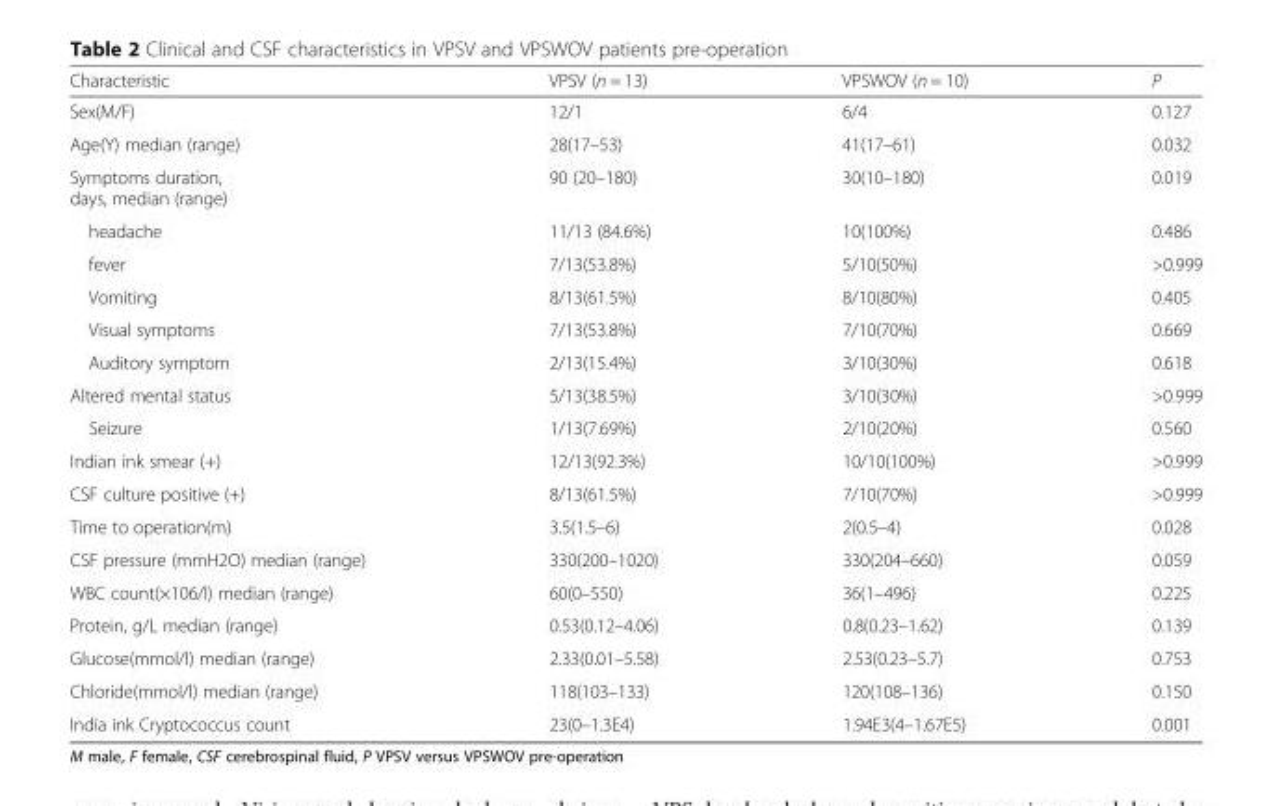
<table><thead><tr><td>Characteristic</td><td>VPSV (n = 13)</td><td>VPSWOV (n = 10)</td><td>P</td></tr></thead><tbody><tr><td>Sex(M/F)</td><td>12/1</td><td>6/4</td><td>0.127</td></tr><tr><td>Age(Y) median (range)</td><td>28(17–53)</td><td>41(17–61)</td><td>0.032</td></tr><tr><td>Symptoms duration, days, median (range)</td><td>90 (20–180)</td><td>30(10–180)</td><td>0.019</td></tr><tr><td>headache</td><td>11/13 (84.6%)</td><td>10(100%)</td><td>0.486</td></tr><tr><td>fever</td><td>7/13(53.8%)</td><td>5/10(50%)</td><td>&gt;0.999</td></tr><tr><td>Vomiting</td><td>8/13(61.5%)</td><td>8/10(80%)</td><td>0.405</td></tr><tr><td>Visual symptoms</td><td>7/13(53.8%)</td><td>7/10(70%)</td><td>0.669</td></tr><tr><td>Auditory symptom</td><td>2/13(15.4%)</td><td>3/10(30%)</td><td>0.618</td></tr><tr><td>Altered mental status</td><td>5/13(38.5%)</td><td>3/10(30%)</td><td>&gt;0.999</td></tr><tr><td>Seizure</td><td>1/13(7.69%)</td><td>2/10(20%)</td><td>0.560</td></tr><tr><td>Indian ink smear (+)</td><td>12/13(92.3%)</td><td>10/10(100%)</td><td>&gt;0.999</td></tr><tr><td>CSF culture positive (+)</td><td>8/13(61.5%)</td><td>7/10(70%)</td><td>&gt;0.999</td></tr><tr><td>Time to operation(m)</td><td>3.5(1.5–6)</td><td>2(0.5–4)</td><td>0.028</td></tr><tr><td>CSF pressure (mmH2O) median (range)</td><td>330(200–1020)</td><td>330(204–660)</td><td>0.059</td></tr><tr><td>WBC count(×106/l) median (range)</td><td>60(0–550)</td><td>36(1–496)</td><td>0.225</td></tr><tr><td>Protein, g/L median (range)</td><td>0.53(0.12–4.06)</td><td>0.8(0.23–1.62)</td><td>0.139</td></tr><tr><td>Glucose(mmol/l) median (range)</td><td>2.33(0.01–5.58)</td><td>2.53(0.23–5.7)</td><td>0.753</td></tr><tr><td>Chloride(mmol/l) median (range)</td><td>118(103–133)</td><td>120(108–136)</td><td>0.150</td></tr><tr><td>India ink Cryptococcus count</td><td>23(0–1.3E4)</td><td>1.94E3(4–1.67E5)</td><td>0.001</td></tr></tbody></table>